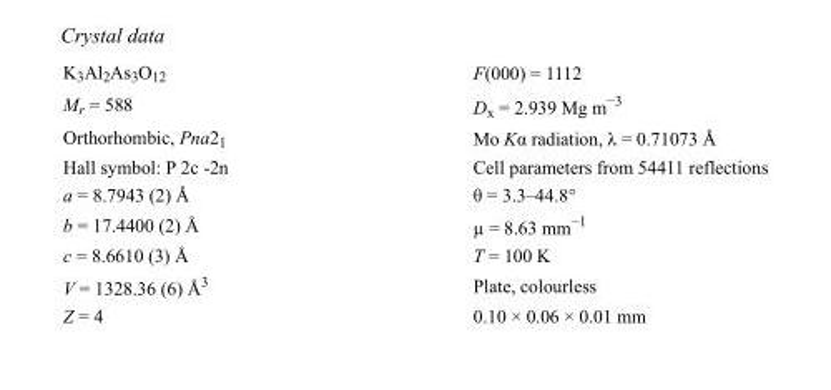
<table><tbody><tr><td>K<sub>3</sub>Al<sub>2</sub>As<sub>3</sub>O<sub>12</sub></td><td>F(000) = 1112</td></tr><tr><td>M<sub>r</sub> = 588</td><td>D<sub>x</sub> = 2.939 Mg m<sup>−3</sup></td></tr><tr><td>Orthorhombic, Pna2<sub>1</sub></td><td>Mo Kα radiation, λ = 0.71073 Å</td></tr><tr><td>Hall symbol: P 2c -2n</td><td>Cell parameters from 54411 reflections</td></tr><tr><td>a = 8.7943 (2) Å</td><td>θ = 3.3–44.8°</td></tr><tr><td>b = 17.4400 (2) Å</td><td>µ = 8.63 mm<sup>−1</sup></td></tr><tr><td>c = 8.6610 (3) Å</td><td>T = 100 K</td></tr><tr><td>V = 1328.36 (6) Å<sup>3</sup></td><td>Plate, colourless</td></tr><tr><td>Z = 4</td><td>0.10 × 0.06 × 0.01 mm</td></tr></tbody></table>